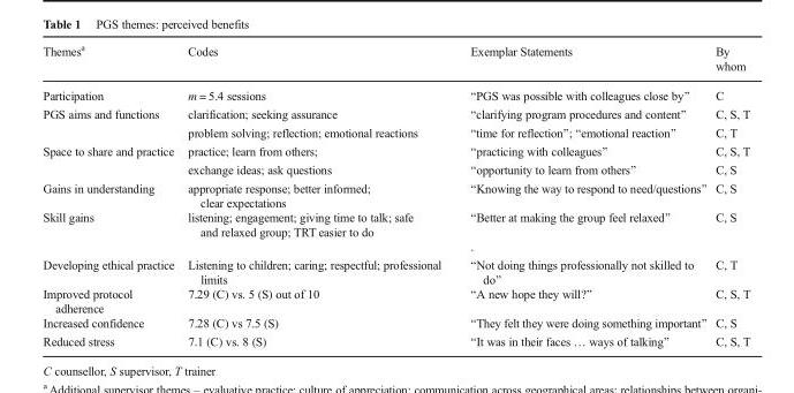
<table><thead><tr><td>Themes<sup>a</sup></td><td>Codes</td><td>Exemplar Statements</td><td>By whom</td></tr></thead><tbody><tr><td>Participation</td><td>m = 5.4 sessions</td><td>“PGS was possible with colleagues close by”</td><td>C</td></tr><tr><td rowspan="2">PGS aims and functions</td><td>clarification; seeking assurance</td><td>“clarifying program procedures and content”</td><td>C, S, T</td></tr><tr><td>problem solving; reflection; emotional reactions</td><td>“time for reflection”; “emotional reaction”</td><td>C, T</td></tr><tr><td rowspan="2">Space to share and practice</td><td>practice; learn from others;</td><td>“practicing with colleagues”</td><td>C, S, T</td></tr><tr><td>exchange ideas; ask questions</td><td>“opportunity to learn from others”</td><td>C, S</td></tr><tr><td>Gains in understanding</td><td>appropriate response; better informed; clear expectations</td><td>“Knowing the way to respond to need/questions”</td><td>C, S</td></tr><tr><td rowspan="2">Skill gains</td><td>listening; engagement; giving time to talk; safe and relaxed group; TRT easier to do</td><td>“Better at making the group feel relaxed”</td><td>C, S</td></tr><tr><td></td><td>.</td><td></td></tr><tr><td>Developing ethical practice</td><td>Listening to children; caring; respectful; professional limits</td><td>“Not doing things professionally not skilled to do”</td><td>C, T</td></tr><tr><td>Improved protocol adherence</td><td>7.29 (C) vs. 5 (S) out of 10</td><td>“A new hope they will?”</td><td>C, S, T</td></tr><tr><td>Increased confidence</td><td>7.28 (C) vs 7.5 (S)</td><td>“They felt they were doing something important”</td><td>C, S</td></tr><tr><td>Reduced stress</td><td>7.1 (C) vs. 8 (S)</td><td>“It was in their faces … ways of talking”</td><td>C, S, T</td></tr></tbody></table>